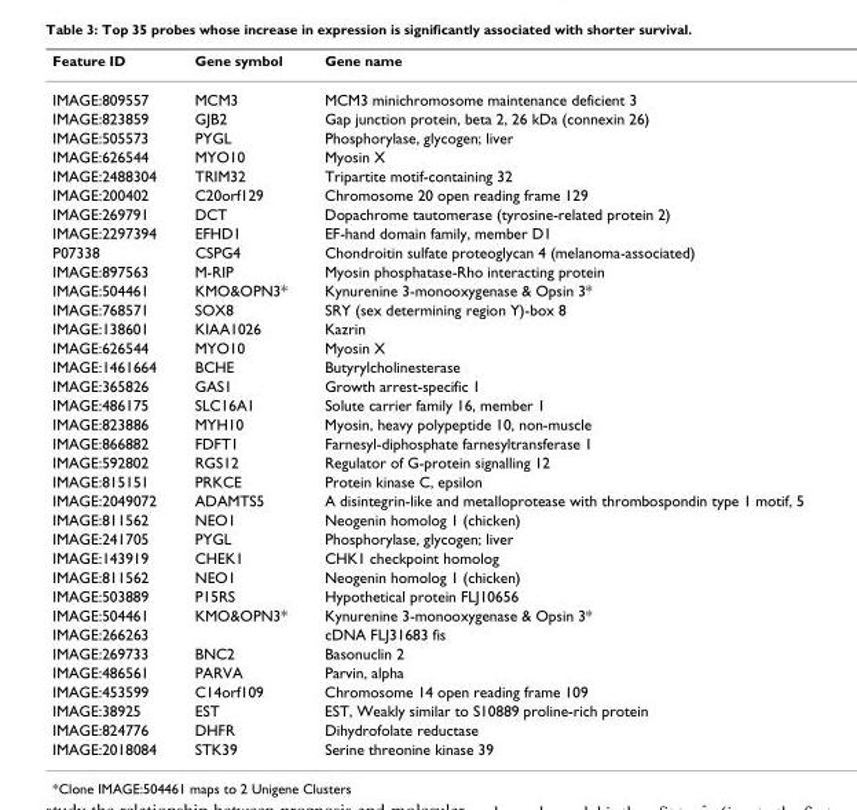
<table><thead><tr><td>Feature ID</td><td>Gene symbol</td><td>Gene name</td></tr></thead><tbody><tr><td>IMAGE:809557</td><td>MCM3</td><td>MCM3 minichromosome maintenance deficient 3</td></tr><tr><td>IMAGE:823859</td><td>GJB2</td><td>Gap junction protein, beta 2, 26 kDa (connexin 26)</td></tr><tr><td>IMAGE:505573</td><td>PYGL</td><td>Phosphorylase, glycogen; liver</td></tr><tr><td>IMAGE:626544</td><td>MYO10</td><td>Myosin X</td></tr><tr><td>IMAGE:2488304</td><td>TRIM32</td><td>Tripartite motif-containing 32</td></tr><tr><td>IMAGE:200402</td><td>C20orf129</td><td>Chromosome 20 open reading frame 129</td></tr><tr><td>IMAGE:269791</td><td>DCT</td><td>Dopachrome tautomerase (tyrosine-related protein 2)</td></tr><tr><td>IMAGE:2297394</td><td>EFHD1</td><td>EF-hand domain family, member D1</td></tr><tr><td>P07338</td><td>CSPG4</td><td>Chondroitin sulfate proteoglycan 4 (melanoma-associated)</td></tr><tr><td>IMAGE:897563</td><td>M-RIP</td><td>Myosin phosphatase-Rho interacting protein</td></tr><tr><td>IMAGE:504461</td><td>KMO&amp;OPN3*</td><td>Kynurenine 3-monooxygenase &amp; Opsin 3*</td></tr><tr><td>IMAGE:768571</td><td>SOX8</td><td>SRY (sex determining region Y)-box 8</td></tr><tr><td>IMAGE:138601</td><td>KIAA1026</td><td>Kazrin</td></tr><tr><td>IMAGE:626544</td><td>MYO10</td><td>Myosin X</td></tr><tr><td>IMAGE:1461664</td><td>BCHE</td><td>Butyrylcholinesterase</td></tr><tr><td>IMAGE:365826</td><td>GAS1</td><td>Growth arrest-specific 1</td></tr><tr><td>IMAGE:486175</td><td>SLC16A1</td><td>Solute carrier family 16, member 1</td></tr><tr><td>IMAGE:823886</td><td>MYH10</td><td>Myosin, heavy polypeptide 10, non-muscle</td></tr><tr><td>IMAGE:866882</td><td>FDFT1</td><td>Farnesyl-diphosphate farnesyltransferase 1</td></tr><tr><td>IMAGE:592802</td><td>RGS12</td><td>Regulator of G-protein signalling 12</td></tr><tr><td>IMAGE:815151</td><td>PRKCE</td><td>Protein kinase C, epsilon</td></tr><tr><td>IMAGE:2049072</td><td>ADAMTS5</td><td>A disintegrin-like and metalloprotease with thrombospondin type 1 motif, 5</td></tr><tr><td>IMAGE:811562</td><td>NEO1</td><td>Neogenin homolog 1 (chicken)</td></tr><tr><td>IMAGE:241705</td><td>PYGL</td><td>Phosphorylase, glycogen; liver</td></tr><tr><td>IMAGE:143919</td><td>CHEK1</td><td>CHK1 checkpoint homolog</td></tr><tr><td>IMAGE:811562</td><td>NEO1</td><td>Neogenin homolog 1 (chicken)</td></tr><tr><td>IMAGE:503889</td><td>P15RS</td><td>Hypothetical protein FLJ10656</td></tr><tr><td>IMAGE:504461</td><td>KMO&amp;OPN3*</td><td>Kynurenine 3-monooxygenase &amp; Opsin 3*</td></tr><tr><td>IMAGE:266263</td><td></td><td>cDNA FLJ31683 fis</td></tr><tr><td>IMAGE:269733</td><td>BNC2</td><td>Basonuclin 2</td></tr><tr><td>IMAGE:486561</td><td>PARVA</td><td>Parvin, alpha</td></tr><tr><td>IMAGE:453599</td><td>C14orf109</td><td>Chromosome 14 open reading frame 109</td></tr><tr><td>IMAGE:38925</td><td>EST</td><td>EST, Weakly similar to S10889 proline-rich protein</td></tr><tr><td>IMAGE:824776</td><td>DHFR</td><td>Dihydrofolate reductase</td></tr><tr><td>IMAGE:2018084</td><td>STK39</td><td>Serine threonine kinase 39</td></tr></tbody></table>